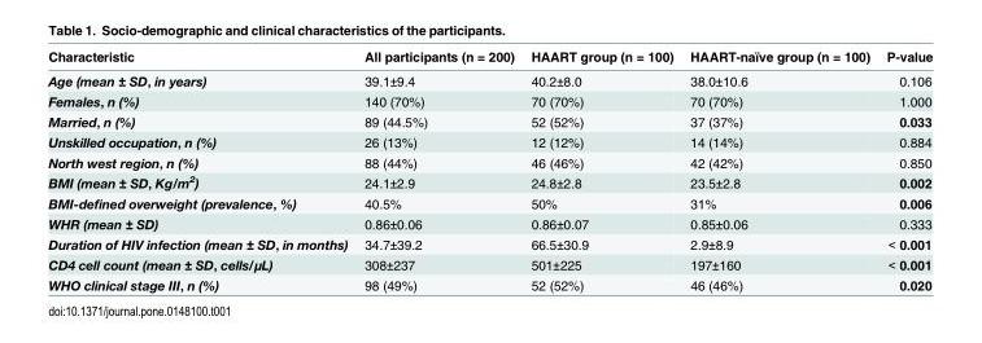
<table><thead><tr><td>Characteristic</td><td>All participants (n = 200)</td><td>HAART group (n = 100)</td><td>HAART-naïve group (n = 100)</td><td>P-value</td></tr></thead><tbody><tr><td>Age (mean ± SD, in years)</td><td>39.1±9.4</td><td>40.2±8.0</td><td>38.0±10.6</td><td>0.106</td></tr><tr><td>Females, n (%)</td><td>140 (70%)</td><td>70 (70%)</td><td>70 (70%)</td><td>1.000</td></tr><tr><td>Married, n (%)</td><td>89 (44.5%)</td><td>52 (52%)</td><td>37 (37%)</td><td>0.033</td></tr><tr><td>Unskilled occupation, n (%)</td><td>26 (13%)</td><td>12 (12%)</td><td>14 (14%)</td><td>0.884</td></tr><tr><td>North west region, n (%)</td><td>88 (44%)</td><td>46 (46%)</td><td>42 (42%)</td><td>0.850</td></tr><tr><td>BMI (mean ± SD, Kg/m<sup>2</sup>)</td><td>24.1±2.9</td><td>24.8±2.8</td><td>23.5±2.8</td><td>0.002</td></tr><tr><td>BMI-defined overweight (prevalence, %)</td><td>40.5%</td><td>50%</td><td>31%</td><td>0.006</td></tr><tr><td>WHR (mean ± SD)</td><td>0.86±0.06</td><td>0.86±0.07</td><td>0.85±0.06</td><td>0.333</td></tr><tr><td>Duration of HIV infection (mean ± SD, in months)</td><td>34.7±39.2</td><td>66.5±30.9</td><td>2.9±8.9</td><td>˂ 0.001</td></tr><tr><td>CD4 cell count (mean ± SD, cells/μL)</td><td>308±237</td><td>501±225</td><td>197±160</td><td>˂ 0.001</td></tr><tr><td>WHO clinical stage III, n (%)</td><td>98 (49%)</td><td>52 (52%)</td><td>46 (46%)</td><td>0.020</td></tr></tbody></table>